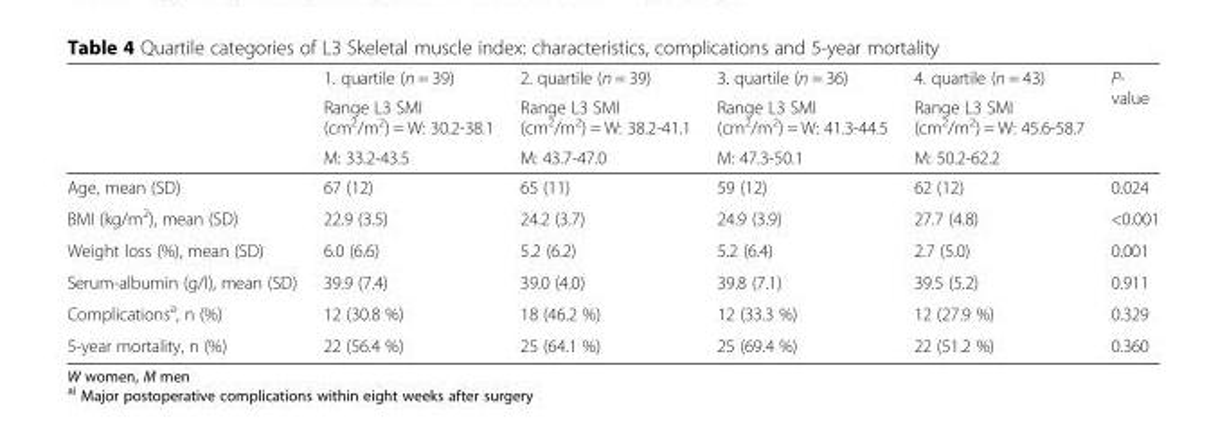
<table><thead><tr><td rowspan="3"></td><td rowspan="3">1. quartile (n = 39) Range L3 SMI (cm<sup>2</sup>/m<sup>2</sup>) = W: 30.2-38.1 M: 33.2-43.5</td><td rowspan="3">2. quartile (n = 39) Range L3 SMI (cm<sup>2</sup>/m<sup>2</sup>) = W: 38.2-41.1 M: 43.7-47.0</td><td rowspan="3">3. quartile (n = 36) Range L3 SMI (cm<sup>2</sup>/m<sup>2</sup>) = W: 41.3-44.5 M: 47.3-50.1</td><td rowspan="3">4. quartile (n = 43) Range L3 SMI (cm<sup>2</sup>/m<sup>2</sup>) = W: 45.6-58.7 M: 50.2-62.2</td><td rowspan="3">P- value</td></tr><tr></tr><tr></tr></thead><tbody><tr><td>Age, mean (SD)</td><td>67 (12)</td><td>65 (11)</td><td>59 (12)</td><td>62 (12)</td><td>0.024</td></tr><tr><td>BMI (kg/m<sup>2</sup>), mean (SD)</td><td>22.9 (3.5)</td><td>24.2 (3.7)</td><td>24.9 (3.9)</td><td>27.7 (4.8)</td><td>&lt;0.001</td></tr><tr><td>Weight loss (%), mean (SD)</td><td>6.0 (6.6)</td><td>5.2 (6.2)</td><td>5.2 (6.4)</td><td>2.7 (5.0)</td><td>0.001</td></tr><tr><td>Serum-albumin (g/l), mean (SD)</td><td>39.9 (7.4)</td><td>39.0 (4.0)</td><td>39.8 (7.1)</td><td>39.5 (5.2)</td><td>0.911</td></tr><tr><td>Complications<sup>a</sup>, n (%)</td><td>12 (30.8 %)</td><td>18 (46.2 %)</td><td>12 (33.3 %)</td><td>12 (27.9 %)</td><td>0.329</td></tr><tr><td>5-year mortality, n (%)</td><td>22 (56.4 %)</td><td>25 (64.1 %)</td><td>25 (69.4 %)</td><td>22 (51.2 %)</td><td>0.360</td></tr></tbody></table>